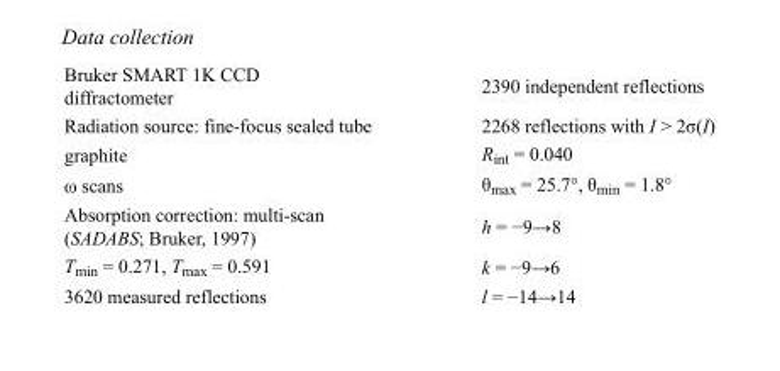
<table><tbody><tr><td>Bruker SMART 1K CCD diffractometer</td><td>2390 independent reflections</td></tr><tr><td>Radiation source: fine-focus sealed tube</td><td>2268 reflections with I &gt; 2σ(I)</td></tr><tr><td>graphite</td><td>R<sub>int</sub> = 0.040</td></tr><tr><td>ω scans</td><td>θ<sub>max</sub> = 25.7°, θ<sub>min</sub> = 1.8°</td></tr><tr><td>Absorption correction: multi-scan (SADABS; Bruker, 1997)</td><td>h = −9→8</td></tr><tr><td>T<sub>min</sub> = 0.271, T<sub>max</sub> = 0.591</td><td>k = −9→6</td></tr><tr><td>3620 measured reflections</td><td>l = −14→14</td></tr></tbody></table>